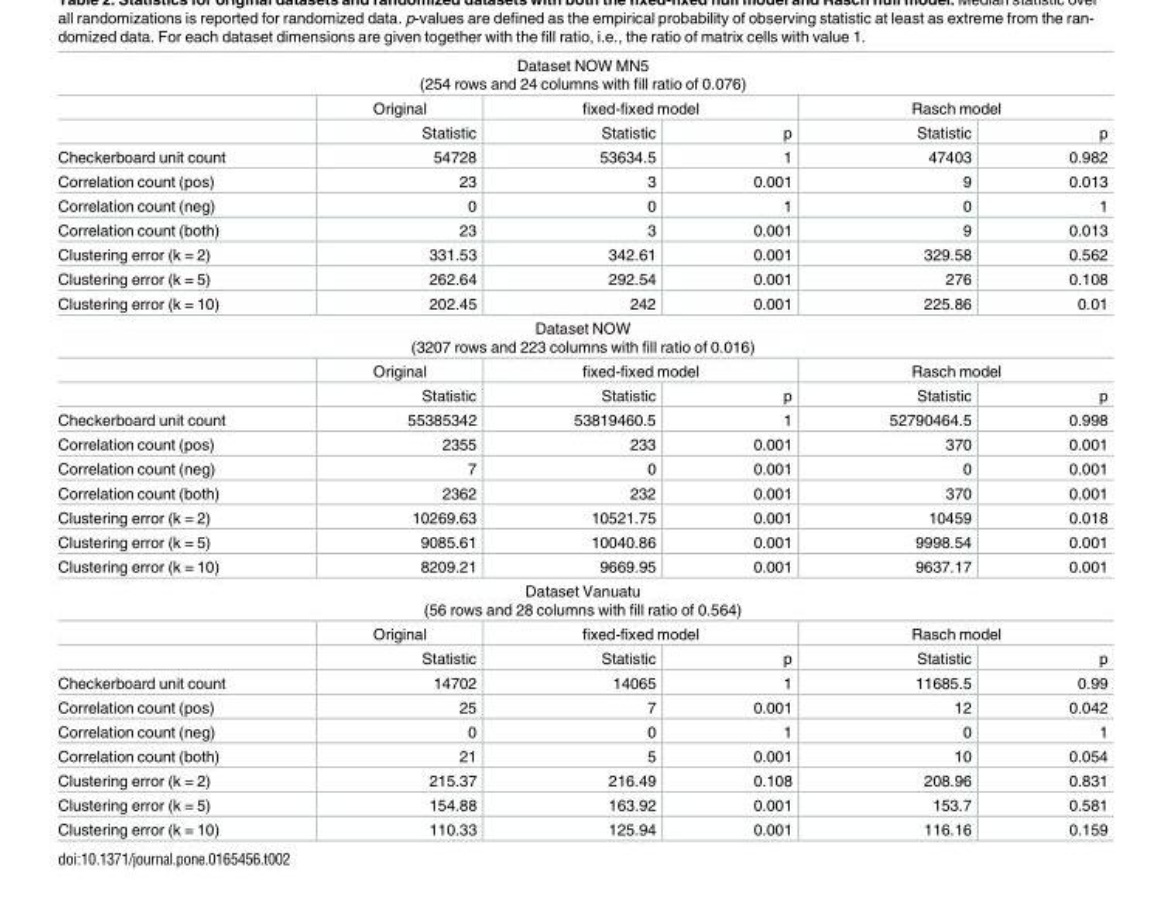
<table><tbody><tr><td colspan="6">Dataset NOW MN5 (254 rows and 24 columns with fill ratio of 0.076)</td></tr><tr><td></td><td>Original</td><td colspan="2">fixed-fixed model</td><td colspan="2">Rasch model</td></tr><tr><td></td><td>Statistic</td><td>Statistic</td><td>p</td><td>Statistic</td><td>p</td></tr><tr><td>Checkerboard unit count</td><td>54728</td><td>53634.5</td><td>1</td><td>47403</td><td>0.982</td></tr><tr><td>Correlation count (pos)</td><td>23</td><td>3</td><td>0.001</td><td>9</td><td>0.013</td></tr><tr><td>Correlation count (neg)</td><td>0</td><td>0</td><td>1</td><td>0</td><td>1</td></tr><tr><td>Correlation count (both)</td><td>23</td><td>3</td><td>0.001</td><td>9</td><td>0.013</td></tr><tr><td>Clustering error (k = 2)</td><td>331.53</td><td>342.61</td><td>0.001</td><td>329.58</td><td>0.562</td></tr><tr><td>Clustering error (k = 5)</td><td>262.64</td><td>292.54</td><td>0.001</td><td>276</td><td>0.108</td></tr><tr><td>Clustering error (k = 10)</td><td>202.45</td><td>242</td><td>0.001</td><td>225.86</td><td>0.01</td></tr><tr><td colspan="6">Dataset NOW (3207 rows and 223 columns with fill ratio of 0.016)</td></tr><tr><td></td><td>Original</td><td colspan="2">fixed-fixed model</td><td colspan="2">Rasch model</td></tr><tr><td></td><td>Statistic</td><td>Statistic</td><td>p</td><td>Statistic</td><td>p</td></tr><tr><td>Checkerboard unit count</td><td>55385342</td><td>53819460.5</td><td>1</td><td>52790464.5</td><td>0.998</td></tr><tr><td>Correlation count (pos)</td><td>2355</td><td>233</td><td>0.001</td><td>370</td><td>0.001</td></tr><tr><td>Correlation count (neg)</td><td>7</td><td>0</td><td>0.001</td><td>0</td><td>0.001</td></tr><tr><td>Correlation count (both)</td><td>2362</td><td>232</td><td>0.001</td><td>370</td><td>0.001</td></tr><tr><td>Clustering error (k = 2)</td><td>10269.63</td><td>10521.75</td><td>0.001</td><td>10459</td><td>0.018</td></tr><tr><td>Clustering error (k = 5)</td><td>9085.61</td><td>10040.86</td><td>0.001</td><td>9998.54</td><td>0.001</td></tr><tr><td>Clustering error (k = 10)</td><td>8209.21</td><td>9669.95</td><td>0.001</td><td>9637.17</td><td>0.001</td></tr><tr><td colspan="6">Dataset Vanuatu (56 rows and 28 columns with fill ratio of 0.564)</td></tr><tr><td></td><td>Original</td><td colspan="2">fixed-fixed model</td><td colspan="2">Rasch model</td></tr><tr><td></td><td>Statistic</td><td>Statistic</td><td>p</td><td>Statistic</td><td>p</td></tr><tr><td>Checkerboard unit count</td><td>14702</td><td>14065</td><td>1</td><td>11685.5</td><td>0.99</td></tr><tr><td>Correlation count (pos)</td><td>25</td><td>7</td><td>0.001</td><td>12</td><td>0.042</td></tr><tr><td>Correlation count (neg)</td><td>0</td><td>0</td><td>1</td><td>0</td><td>1</td></tr><tr><td>Correlation count (both)</td><td>21</td><td>5</td><td>0.001</td><td>10</td><td>0.054</td></tr><tr><td>Clustering error (k = 2)</td><td>215.37</td><td>216.49</td><td>0.108</td><td>208.96</td><td>0.831</td></tr><tr><td>Clustering error (k = 5)</td><td>154.88</td><td>163.92</td><td>0.001</td><td>153.7</td><td>0.581</td></tr><tr><td>Clustering error (k = 10)</td><td>110.33</td><td>125.94</td><td>0.001</td><td>116.16</td><td>0.159</td></tr></tbody></table>